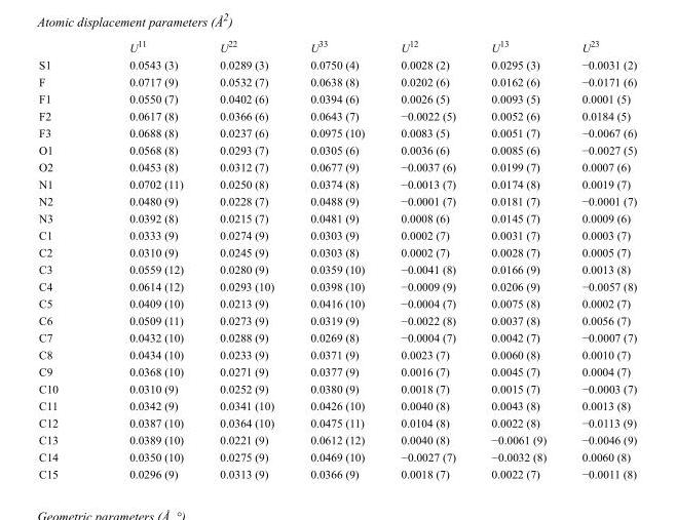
<table><thead><tr><td></td><td>U<sup>11</sup></td><td>U<sup>22</sup></td><td>U<sup>33</sup></td><td>U<sup>12</sup></td><td>U<sup>13</sup></td><td>U<sup>23</sup></td></tr></thead><tbody><tr><td>S1</td><td>0.0543 (3)</td><td>0.0289 (3)</td><td>0.0750 (4)</td><td>0.0028 (2)</td><td>0.0295 (3)</td><td>−0.0031 (2)</td></tr><tr><td>F</td><td>0.0717 (9)</td><td>0.0532 (7)</td><td>0.0638 (8)</td><td>0.0202 (6)</td><td>0.0162 (6)</td><td>−0.0171 (6)</td></tr><tr><td>F1</td><td>0.0550 (7)</td><td>0.0402 (6)</td><td>0.0394 (6)</td><td>0.0026 (5)</td><td>0.0093 (5)</td><td>0.0001 (5)</td></tr><tr><td>F2</td><td>0.0617 (8)</td><td>0.0366 (6)</td><td>0.0643 (7)</td><td>−0.0022 (5)</td><td>0.0052 (6)</td><td>0.0184 (5)</td></tr><tr><td>F3</td><td>0.0688 (8)</td><td>0.0237 (6)</td><td>0.0975 (10)</td><td>0.0083 (5)</td><td>0.0051 (7)</td><td>−0.0067 (6)</td></tr><tr><td>O1</td><td>0.0568 (8)</td><td>0.0293 (7)</td><td>0.0305 (6)</td><td>0.0036 (6)</td><td>0.0085 (6)</td><td>−0.0027 (5)</td></tr><tr><td>O2</td><td>0.0453 (8)</td><td>0.0312 (7)</td><td>0.0677 (9)</td><td>−0.0037 (6)</td><td>0.0199 (7)</td><td>0.0007 (6)</td></tr><tr><td>N1</td><td>0.0702 (11)</td><td>0.0250 (8)</td><td>0.0374 (8)</td><td>−0.0013 (7)</td><td>0.0174 (8)</td><td>0.0019 (7)</td></tr><tr><td>N2</td><td>0.0480 (9)</td><td>0.0228 (7)</td><td>0.0488 (9)</td><td>−0.0001 (7)</td><td>0.0181 (7)</td><td>−0.0001 (7)</td></tr><tr><td>N3</td><td>0.0392 (8)</td><td>0.0215 (7)</td><td>0.0481 (9)</td><td>0.0008 (6)</td><td>0.0145 (7)</td><td>0.0009 (6)</td></tr><tr><td>C1</td><td>0.0333 (9)</td><td>0.0274 (9)</td><td>0.0303 (9)</td><td>0.0002 (7)</td><td>0.0031 (7)</td><td>0.0003 (7)</td></tr><tr><td>C2</td><td>0.0310 (9)</td><td>0.0245 (9)</td><td>0.0303 (8)</td><td>0.0002 (7)</td><td>0.0028 (7)</td><td>0.0005 (7)</td></tr><tr><td>C3</td><td>0.0559 (12)</td><td>0.0280 (9)</td><td>0.0359 (10)</td><td>−0.0041 (8)</td><td>0.0166 (9)</td><td>0.0013 (8)</td></tr><tr><td>C4</td><td>0.0614 (12)</td><td>0.0293 (10)</td><td>0.0398 (10)</td><td>−0.0009 (9)</td><td>0.0206 (9)</td><td>−0.0057 (8)</td></tr><tr><td>C5</td><td>0.0409 (10)</td><td>0.0213 (9)</td><td>0.0416 (10)</td><td>−0.0004 (7)</td><td>0.0075 (8)</td><td>0.0002 (7)</td></tr><tr><td>C6</td><td>0.0509 (11)</td><td>0.0273 (9)</td><td>0.0319 (9)</td><td>−0.0022 (8)</td><td>0.0037 (8)</td><td>0.0056 (7)</td></tr><tr><td>C7</td><td>0.0432 (10)</td><td>0.0288 (9)</td><td>0.0269 (8)</td><td>−0.0004 (7)</td><td>0.0042 (7)</td><td>−0.0007 (7)</td></tr><tr><td>C8</td><td>0.0434 (10)</td><td>0.0233 (9)</td><td>0.0371 (9)</td><td>0.0023 (7)</td><td>0.0060 (8)</td><td>0.0010 (7)</td></tr><tr><td>C9</td><td>0.0368 (10)</td><td>0.0271 (9)</td><td>0.0377 (9)</td><td>0.0016 (7)</td><td>0.0045 (7)</td><td>0.0004 (7)</td></tr><tr><td>C10</td><td>0.0310 (9)</td><td>0.0252 (9)</td><td>0.0380 (9)</td><td>0.0018 (7)</td><td>0.0015 (7)</td><td>−0.0003 (7)</td></tr><tr><td>C11</td><td>0.0342 (9)</td><td>0.0341 (10)</td><td>0.0426 (10)</td><td>0.0040 (8)</td><td>0.0043 (8)</td><td>0.0013 (8)</td></tr><tr><td>C12</td><td>0.0387 (10)</td><td>0.0364 (10)</td><td>0.0475 (11)</td><td>0.0104 (8)</td><td>0.0022 (8)</td><td>−0.0113 (9)</td></tr><tr><td>C13</td><td>0.0389 (10)</td><td>0.0221 (9)</td><td>0.0612 (12)</td><td>0.0040 (8)</td><td>−0.0061 (9)</td><td>−0.0046 (9)</td></tr><tr><td>C14</td><td>0.0350 (10)</td><td>0.0275 (9)</td><td>0.0469 (10)</td><td>−0.0027 (7)</td><td>−0.0032 (8)</td><td>0.0060 (8)</td></tr><tr><td>C15</td><td>0.0296 (9)</td><td>0.0313 (9)</td><td>0.0366 (9)</td><td>0.0018 (7)</td><td>0.0022 (7)</td><td>−0.0011 (8)</td></tr></tbody></table>